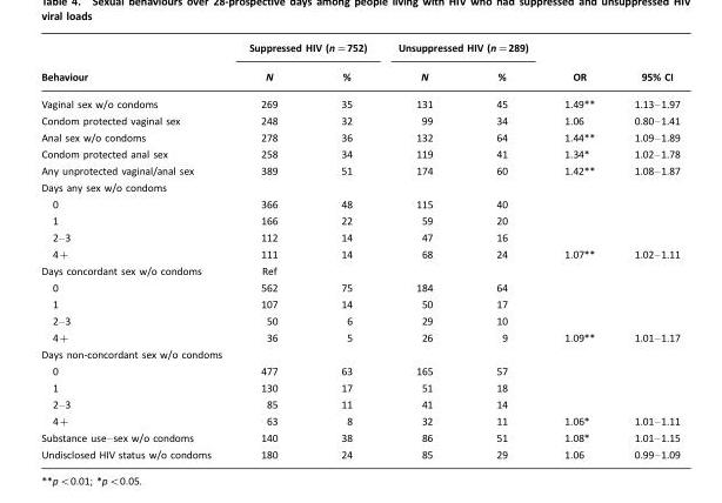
<table><thead><tr><td rowspan="2">Behaviour</td><td colspan="2">Suppressed HIV (n=752)</td><td colspan="2">Unsuppressed HIV (n=289)</td><td rowspan="2">OR</td><td rowspan="2">95% CI</td></tr><tr><td>N</td><td>%</td><td>N</td><td>%</td></tr></thead><tbody><tr><td>Vaginal sex w/o condoms</td><td>269</td><td>35</td><td>131</td><td>45</td><td>1.49**</td><td>1.13–1.97</td></tr><tr><td>Condom protected vaginal sex</td><td>248</td><td>32</td><td>99</td><td>34</td><td>1.06</td><td>0.80–1.41</td></tr><tr><td>Anal sex w/o condoms</td><td>278</td><td>36</td><td>132</td><td>64</td><td>1.44**</td><td>1.09–1.89</td></tr><tr><td>Condom protected anal sex</td><td>258</td><td>34</td><td>119</td><td>41</td><td>1.34*</td><td>1.02–1.78</td></tr><tr><td>Any unprotected vaginal/anal sex</td><td>389</td><td>51</td><td>174</td><td>60</td><td>1.42**</td><td>1.08–1.87</td></tr><tr><td colspan="7">Days any sex w/o condoms</td></tr><tr><td>0</td><td>366</td><td>48</td><td>115</td><td>40</td><td></td><td></td></tr><tr><td>1</td><td>166</td><td>22</td><td>59</td><td>20</td><td></td><td></td></tr><tr><td>2–3</td><td>112</td><td>14</td><td>47</td><td>16</td><td></td><td></td></tr><tr><td>4+</td><td>111</td><td>14</td><td>68</td><td>24</td><td>1.07**</td><td>1.02–1.11</td></tr><tr><td>Days concordant sex w/o condoms</td><td>Ref</td><td></td><td></td><td></td><td></td><td></td></tr><tr><td>0</td><td>562</td><td>75</td><td>184</td><td>64</td><td></td><td></td></tr><tr><td>1</td><td>107</td><td>14</td><td>50</td><td>17</td><td></td><td></td></tr><tr><td>2–3</td><td>50</td><td>6</td><td>29</td><td>10</td><td></td><td></td></tr><tr><td>4+</td><td>36</td><td>5</td><td>26</td><td>9</td><td>1.09**</td><td>1.01–1.17</td></tr><tr><td colspan="7">Days non-concordant sex w/o condoms</td></tr><tr><td>0</td><td>477</td><td>63</td><td>165</td><td>57</td><td></td><td></td></tr><tr><td>1</td><td>130</td><td>17</td><td>51</td><td>18</td><td></td><td></td></tr><tr><td>2–3</td><td>85</td><td>11</td><td>41</td><td>14</td><td></td><td></td></tr><tr><td>4+</td><td>63</td><td>8</td><td>32</td><td>11</td><td>1.06*</td><td>1.01–1.11</td></tr><tr><td>Substance use–sex w/o condoms</td><td>140</td><td>38</td><td>86</td><td>51</td><td>1.08*</td><td>1.01–1.15</td></tr><tr><td>Undisclosed HIV status w/o condoms</td><td>180</td><td>24</td><td>85</td><td>29</td><td>1.06</td><td>0.99–1.09</td></tr></tbody></table>